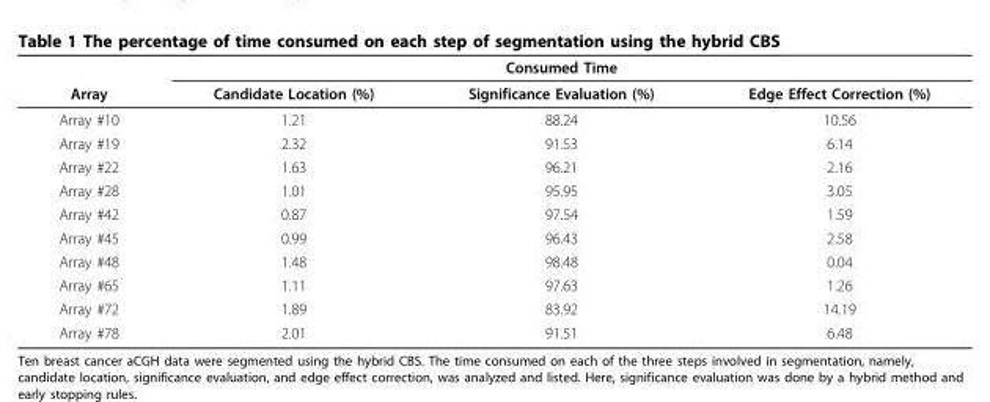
<table><thead><tr><td rowspan="2">Array</td><td rowspan="2">Candidate Location (%)</td><td rowspan="2">Consumed Time Significance Evaluation (%)</td><td rowspan="2">Edge Effect Correction (%)</td></tr><tr></tr></thead><tbody><tr><td>Array #10</td><td>1.21</td><td>88.24</td><td>10.56</td></tr><tr><td>Array #19</td><td>2.32</td><td>91.53</td><td>6.14</td></tr><tr><td>Array #22</td><td>1.63</td><td>96.21</td><td>2.16</td></tr><tr><td>Array #28</td><td>1.01</td><td>95.95</td><td>3.05</td></tr><tr><td>Array #42</td><td>0.87</td><td>97.54</td><td>1.59</td></tr><tr><td>Array #45</td><td>0.99</td><td>96.43</td><td>2.58</td></tr><tr><td>Array #48</td><td>1.48</td><td>98.48</td><td>0.04</td></tr><tr><td>Array #65</td><td>1.11</td><td>97.63</td><td>1.26</td></tr><tr><td>Array #72</td><td>1.89</td><td>83.92</td><td>14.19</td></tr><tr><td>Array #78</td><td>2.01</td><td>91.51</td><td>6.48</td></tr></tbody></table>